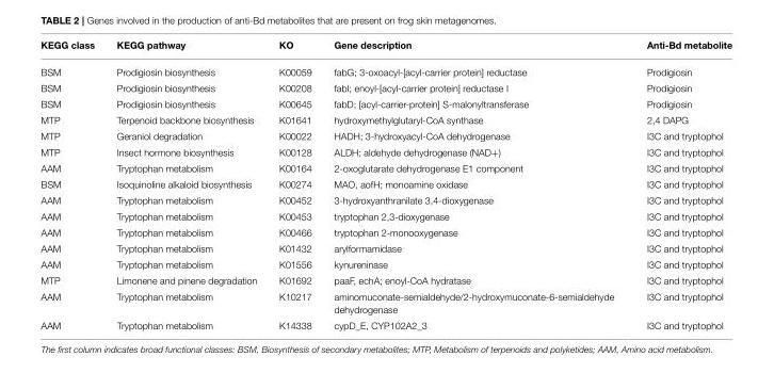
<table><thead><tr><td>KEGG class</td><td>KEGG pathway</td><td>KO</td><td>Gene description</td><td>Anti-Bd metabolite</td></tr></thead><tbody><tr><td>BSM</td><td>Prodigiosin biosynthesis</td><td>K00059</td><td>fabG; 3-oxoacyl-[acyl-carrier protein] reductase</td><td>Prodigiosin</td></tr><tr><td>BSM</td><td>Prodigiosin biosynthesis</td><td>K00208</td><td>fabI; enoyl-[acyl-carrier protein] reductase I</td><td>Prodigiosin</td></tr><tr><td>BSM</td><td>Prodigiosin biosynthesis</td><td>K00645</td><td>fabD; [acyl-carrier-protein] S-malonyltransferase</td><td>Prodigiosin</td></tr><tr><td>MTP</td><td>Terpenoid backbone biosynthesis</td><td>K01641</td><td>hydroxymethylglutaryl-CoA synthase</td><td>2,4 DAPG</td></tr><tr><td>MTP</td><td>Geraniol degradation</td><td>K00022</td><td>HADH; 3-hydroxyacyl-CoA dehydrogenase</td><td>I3C and tryptophol</td></tr><tr><td>MTP</td><td>Insect hormone biosynthesis</td><td>K00128</td><td>ALDH; aldehyde dehydrogenase (NAD+)</td><td>I3C and tryptophol</td></tr><tr><td>AAM</td><td>Tryptophan metabolism</td><td>K00164</td><td>2-oxoglutarate dehydrogenase E1 component</td><td>I3C and tryptophol</td></tr><tr><td>BSM</td><td>Isoquinoline alkaloid biosynthesis</td><td>K00274</td><td>MAO, aofH; monoamine oxidase</td><td>I3C and tryptophol</td></tr><tr><td>AAM</td><td>Tryptophan metabolism</td><td>K00452</td><td>3-hydroxyanthranilate 3,4-dioxygenase</td><td>I3C and tryptophol</td></tr><tr><td>AAM</td><td>Tryptophan metabolism</td><td>K00453</td><td>tryptophan 2,3-dioxygenase</td><td>I3C and tryptophol</td></tr><tr><td>AAM</td><td>Tryptophan metabolism</td><td>K00466</td><td>tryptophan 2-monooxygenase</td><td>I3C and tryptophol</td></tr><tr><td>AAM</td><td>Tryptophan metabolism</td><td>K01432</td><td>arylformamidase</td><td>I3C and tryptophol</td></tr><tr><td>AAM</td><td>Tryptophan metabolism</td><td>K01556</td><td>kynureninase</td><td>I3C and tryptophol</td></tr><tr><td>MTP</td><td>Limonene and pinene degradation</td><td>K01692</td><td>paaF, echA; enoyl-CoA hydratase</td><td>I3C and tryptophol</td></tr><tr><td>AAM</td><td>Tryptophan metabolism</td><td>K10217</td><td>aminomuconate-semialdehyde/2-hydroxymuconate-6-semialdehyde dehydrogenase</td><td>I3C and tryptophol</td></tr><tr><td>AAM</td><td>Tryptophan metabolism</td><td>K14338</td><td>cypD_E, CYP102A2_3</td><td>I3C and tryptophol</td></tr></tbody></table>